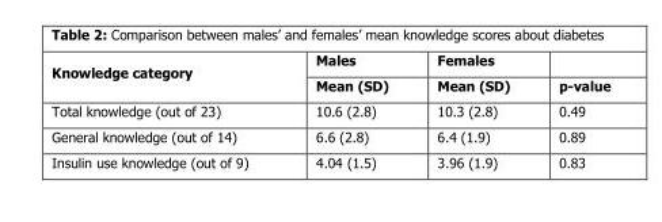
<table><thead><tr><td rowspan="2">Knowledge category</td><td rowspan="2">Males Mean (SD)</td><td rowspan="2">Females Mean (SD)</td><td rowspan="2">p-value</td></tr><tr></tr></thead><tbody><tr><td>Total knowledge (out of 23)</td><td>10.6 (2.8)</td><td>10.3 (2.8)</td><td>0.49</td></tr><tr><td>General knowledge (out of 14)</td><td>6.6 (2.8)</td><td>6.4 (1.9)</td><td>0.89</td></tr><tr><td>Insulin use knowledge (out of 9)</td><td>4.04 (1.5)</td><td>3.96 (1.9)</td><td>0.83</td></tr></tbody></table>